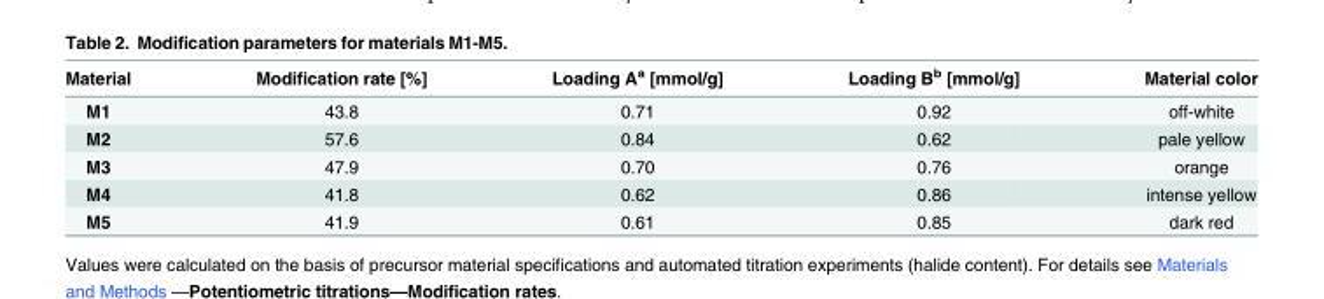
<table><thead><tr><td>Material</td><td>Modification rate [%]</td><td>Loading A<sup>a</sup> [mmol/g]</td><td>Loading B<sup>b</sup> [mmol/g]</td><td>Material color</td></tr></thead><tbody><tr><td>M1</td><td>43.8</td><td>0.71</td><td>0.92</td><td>off-white</td></tr><tr><td>M2</td><td>57.6</td><td>0.84</td><td>0.62</td><td>pale yellow</td></tr><tr><td>M3</td><td>47.9</td><td>0.70</td><td>0.76</td><td>orange</td></tr><tr><td>M4</td><td>41.8</td><td>0.62</td><td>0.86</td><td>intense yellow</td></tr><tr><td>M5</td><td>41.9</td><td>0.61</td><td>0.85</td><td>dark red</td></tr></tbody></table>